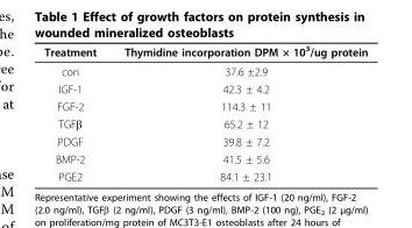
<table><thead><tr><td>Treatment</td><td>Thymidine incorporation DPM × 10<sup>3</sup>/ug protein</td></tr></thead><tbody><tr><td>con</td><td>37.6 ±2.9</td></tr><tr><td>IGF-1</td><td>42.3 ± 4.2</td></tr><tr><td>FGF-2</td><td>114.3 ± 11</td></tr><tr><td>TGFβ</td><td>65.2 ± 12</td></tr><tr><td>PDGF</td><td>39.8 ± 7.2</td></tr><tr><td>BMP-2</td><td>41.5 ± 5.6</td></tr><tr><td>PGE2</td><td>84.1 ± 23.1</td></tr></tbody></table>